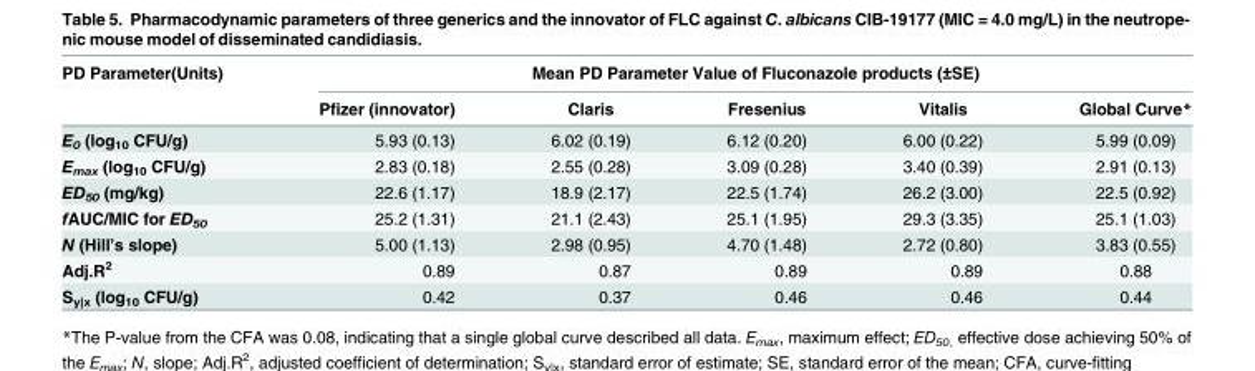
<table><thead><tr><td rowspan="2">PD Parameter(Units)</td><td colspan="5">Mean PD Parameter Value of Fluconazole products (±SE)</td></tr><tr><td>Pfizer (innovator)</td><td>Claris</td><td>Fresenius</td><td>Vitalis</td><td>Global Curve*</td></tr></thead><tbody><tr><td>E<sub>0</sub> (log<sub>10</sub> CFU/g)</td><td>5.93 (0.13)</td><td>6.02 (0.19)</td><td>6.12 (0.20)</td><td>6.00 (0.22)</td><td>5.99 (0.09)</td></tr><tr><td>E<sub>max</sub> (log<sub>10</sub> CFU/g)</td><td>2.83 (0.18)</td><td>2.55 (0.28)</td><td>3.09 (0.28)</td><td>3.40 (0.39)</td><td>2.91 (0.13)</td></tr><tr><td>ED<sub>50</sub> (mg/kg)</td><td>22.6 (1.17)</td><td>18.9 (2.17)</td><td>22.5 (1.74)</td><td>26.2 (3.00)</td><td>22.5 (0.92)</td></tr><tr><td>fAUC/MIC for ED<sub>50</sub></td><td>25.2 (1.31)</td><td>21.1 (2.43)</td><td>25.1 (1.95)</td><td>29.3 (3.35)</td><td>25.1 (1.03)</td></tr><tr><td>N (Hill’s slope)</td><td>5.00 (1.13)</td><td>2.98 (0.95)</td><td>4.70 (1.48)</td><td>2.72 (0.80)</td><td>3.83 (0.55)</td></tr><tr><td>Adj.R<sup>2</sup></td><td>0.89</td><td>0.87</td><td>0.89</td><td>0.89</td><td>0.88</td></tr><tr><td>S<sub>y|x</sub> (log<sub>10</sub> CFU/g)</td><td>0.42</td><td>0.37</td><td>0.46</td><td>0.46</td><td>0.44</td></tr></tbody></table>